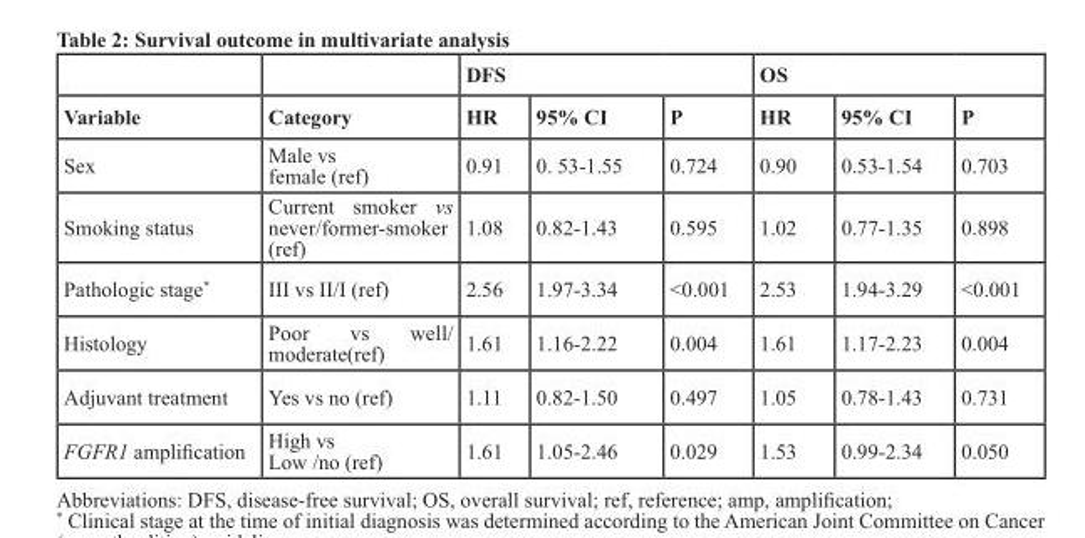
<table><thead><tr><td rowspan="2">Variable</td><td rowspan="2">Category</td><td colspan="3">DFS</td><td colspan="3">OS</td></tr><tr><td>HR</td><td>95% CI</td><td>P</td><td>HR</td><td>95% CI</td><td>P</td></tr></thead><tbody><tr><td>Sex</td><td>Male vs female (ref)</td><td>0.91</td><td>0. 53-1.55</td><td>0.724</td><td>0.90</td><td>0.53-1.54</td><td>0.703</td></tr><tr><td>Smoking status</td><td>Current smoker vs never/former-smoker (ref)</td><td>1.08</td><td>0.82-1.43</td><td>0.595</td><td>1.02</td><td>0.77-1.35</td><td>0.898</td></tr><tr><td>Pathologic stage*</td><td>III vs II/I (ref)</td><td>2.56</td><td>1.97-3.34</td><td>&lt;0.001</td><td>2.53</td><td>1.94-3.29</td><td>&lt;0.001</td></tr><tr><td>Histology</td><td>Poor vs well/ moderate(ref)</td><td>1.61</td><td>1.16-2.22</td><td>0.004</td><td>1.61</td><td>1.17-2.23</td><td>0.004</td></tr><tr><td>Adjuvant treatment</td><td>Yes vs no (ref)</td><td>1.11</td><td>0.82-1.50</td><td>0.497</td><td>1.05</td><td>0.78-1.43</td><td>0.731</td></tr><tr><td>FGFR1 amplification</td><td>High vs Low /no (ref)</td><td>1.61</td><td>1.05-2.46</td><td>0.029</td><td>1.53</td><td>0.99-2.34</td><td>0.050</td></tr></tbody></table>